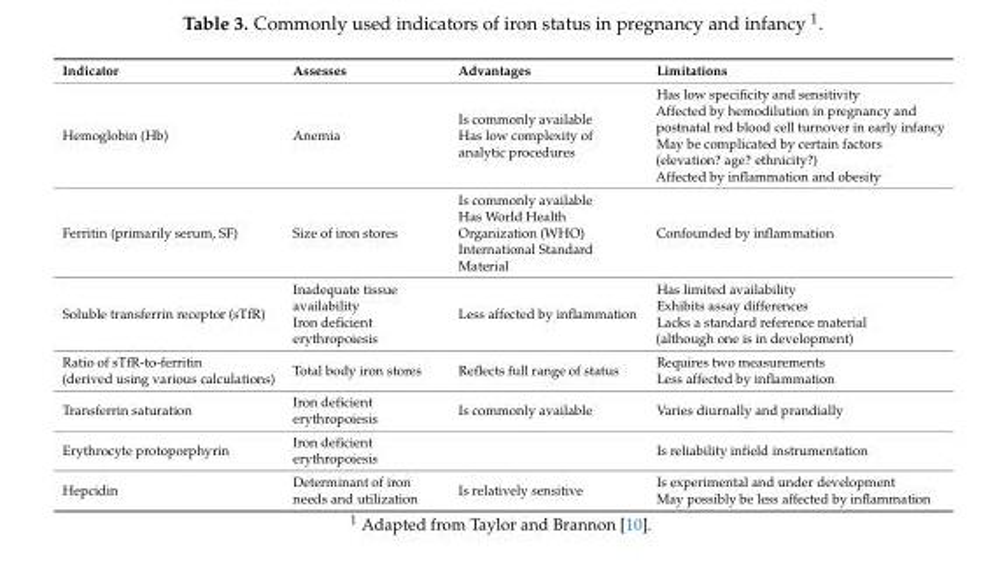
<table><thead><tr><td>Indicator</td><td>Assesses</td><td>Advantages</td><td>Limitations</td></tr></thead><tbody><tr><td>Hemoglobin (Hb)</td><td>Anemia</td><td>Is commonly available Has low complexity of analytic procedures</td><td>Has low specificity and sensitivity Affected by hemodilution in pregnancy and postnatal red blood cell turnover in early infancy May be complicated by certain factors (elevation? age? ethnicity?) Affected by inflammation and obesity</td></tr><tr><td>Ferritin (primarily serum, SF)</td><td>Size of iron stores</td><td>Is commonly available Has World Health Organization (WHO) International Standard Material</td><td>Confounded by inflammation</td></tr><tr><td>Soluble transferrin receptor (sTfR)</td><td>Inadequate tissue availability Iron deficient erythropoiesis</td><td>Less affected by inflammation</td><td>Has limited availability Exhibits assay differences Lacks a standard reference material (although one is in development)</td></tr><tr><td>Ratio of sTfR-to-ferritin (derived using various calculations)</td><td>Total body iron stores</td><td>Reflects full range of status</td><td>Requires two measurements Less affected by inflammation</td></tr><tr><td>Transferrin saturation</td><td>Iron deficient erythropoiesis</td><td>Is commonly available</td><td>Varies diurnally and prandially</td></tr><tr><td>Erythrocyte protoporphyrin</td><td>Iron deficient erythropoiesis</td><td></td><td>Is reliability infield instrumentation</td></tr><tr><td>Hepcidin</td><td>Determinant of iron needs and utilization</td><td>Is relatively sensitive</td><td>Is experimental and under development May possibly be less affected by inflammation</td></tr></tbody></table>